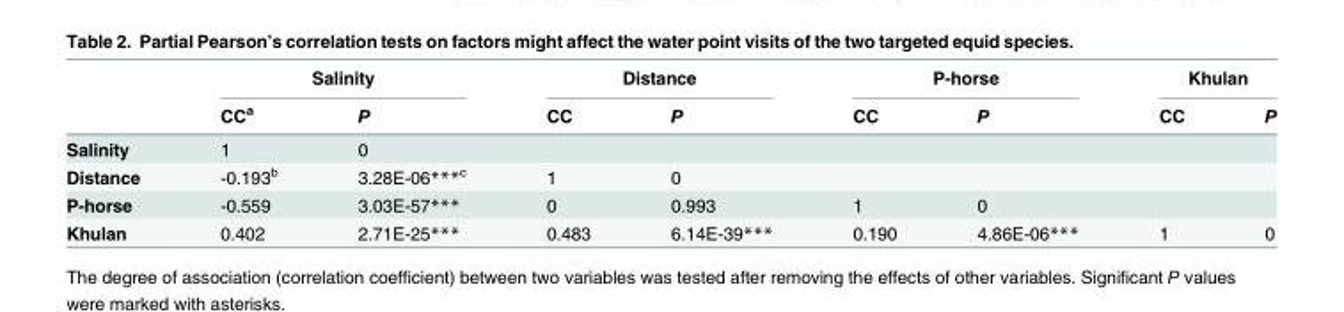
<table><thead><tr><td rowspan="2"></td><td colspan="2">Salinity</td><td colspan="2">Distance</td><td colspan="2">P-horse</td><td colspan="2">Khulan</td></tr><tr><td>CC<sup>a</sup></td><td>P</td><td>CC</td><td>P</td><td>CC</td><td>P</td><td>CC</td><td>P</td></tr></thead><tbody><tr><td>Salinity</td><td>1</td><td>0</td><td></td><td></td><td></td><td></td><td></td><td></td></tr><tr><td>Distance</td><td>-0.193<sup>b</sup></td><td>3.28E-06***<sup>c</sup></td><td>1</td><td>0</td><td></td><td></td><td></td><td></td></tr><tr><td>P-horse</td><td>-0.559</td><td>3.03E-57***</td><td>0</td><td>0.993</td><td>1</td><td>0</td><td></td><td></td></tr><tr><td>Khulan</td><td>0.402</td><td>2.71E-25***</td><td>0.483</td><td>6.14E-39***</td><td>0.190</td><td>4.86E-06***</td><td>1</td><td>0</td></tr></tbody></table>